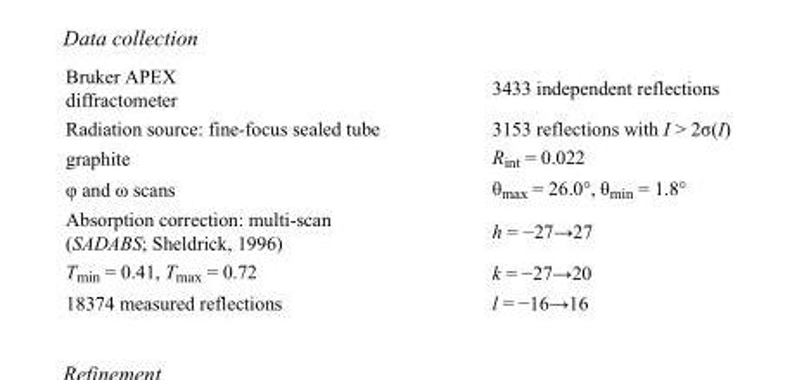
<table><tbody><tr><td>Bruker APEX diffractometer</td><td>3433 independent reflections</td></tr><tr><td>Radiation source: fine-focus sealed tube</td><td>3153 reflections with I &gt; 2σ(I)</td></tr><tr><td>graphite</td><td>R<sub>int</sub> = 0.022</td></tr><tr><td>φ and ω scans</td><td>θ<sub>max</sub> = 26.0°, θ<sub>min</sub> = 1.8°</td></tr><tr><td>Absorption correction: multi-scan (SADABS; Sheldrick, 1996)</td><td>h = −27→27</td></tr><tr><td>T<sub>min</sub> = 0.41, T<sub>max</sub> = 0.72</td><td>k = −27→20</td></tr><tr><td>18374 measured reflections</td><td>l = −16→16</td></tr></tbody></table>